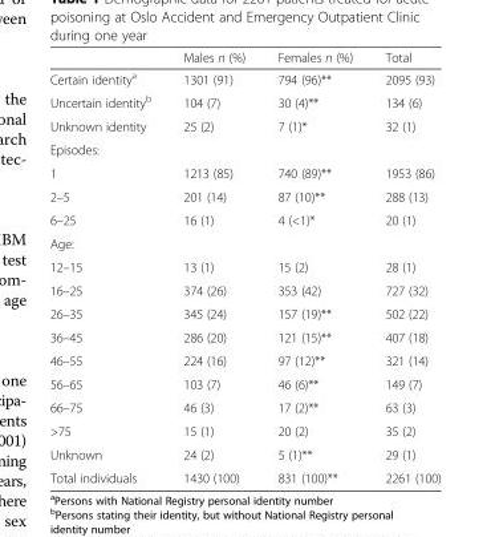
<table><thead><tr><td></td><td>Males n (%)</td><td>Females n (%)</td><td>Total</td></tr></thead><tbody><tr><td>Certain identity<sup>a</sup></td><td>1301 (91)</td><td>794 (96)**</td><td>2095 (93)</td></tr><tr><td>Uncertain identity<sup>b</sup></td><td>104 (7)</td><td>30 (4)**</td><td>134 (6)</td></tr><tr><td>Unknown identity</td><td>25 (2)</td><td>7 (1)*</td><td>32 (1)</td></tr><tr><td colspan="4">Episodes:</td></tr><tr><td>1</td><td>1213 (85)</td><td>740 (89)**</td><td>1953 (86)</td></tr><tr><td>2–5</td><td>201 (14)</td><td>87 (10)**</td><td>288 (13)</td></tr><tr><td>6–25</td><td>16 (1)</td><td>4 (&lt;1)*</td><td>20 (1)</td></tr><tr><td colspan="4">Age:</td></tr><tr><td>12–15</td><td>13 (1)</td><td>15 (2)</td><td>28 (1)</td></tr><tr><td>16–25</td><td>374 (26)</td><td>353 (42)</td><td>727 (32)</td></tr><tr><td>26–35</td><td>345 (24)</td><td>157 (19)**</td><td>502 (22)</td></tr><tr><td>36–45</td><td>286 (20)</td><td>121 (15)**</td><td>407 (18)</td></tr><tr><td>46–55</td><td>224 (16)</td><td>97 (12)**</td><td>321 (14)</td></tr><tr><td>56–65</td><td>103 (7)</td><td>46 (6)**</td><td>149 (7)</td></tr><tr><td>66–75</td><td>46 (3)</td><td>17 (2)**</td><td>63 (3)</td></tr><tr><td>&gt;75</td><td>15 (1)</td><td>20 (2)</td><td>35 (2)</td></tr><tr><td>Unknown</td><td>24 (2)</td><td>5 (1)**</td><td>29 (1)</td></tr><tr><td>Total individuals</td><td>1430 (100)</td><td>831 (100)**</td><td>2261 (100)</td></tr></tbody></table>